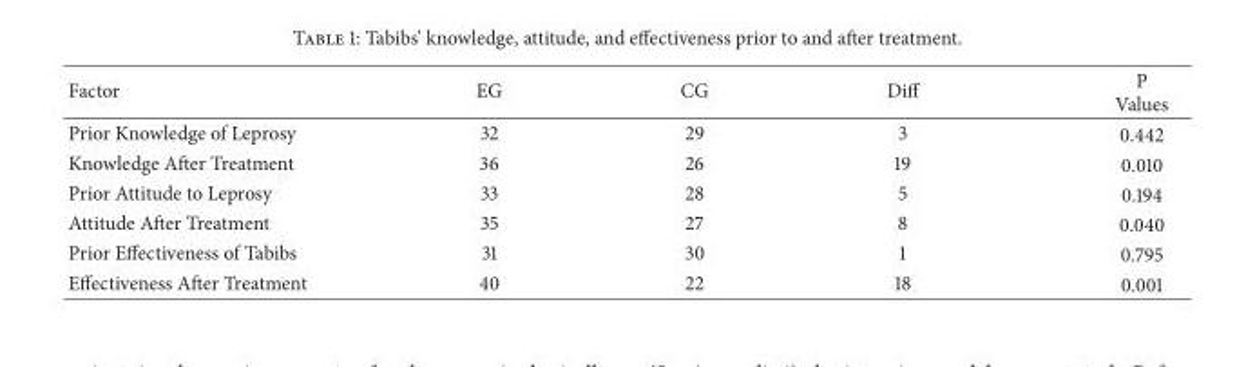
<table><thead><tr><td>Factor</td><td>EG</td><td>CG</td><td>Diff</td><td>P Values</td></tr></thead><tbody><tr><td>Prior Knowledge of Leprosy</td><td>32</td><td>29</td><td>3</td><td>0.442</td></tr><tr><td>Knowledge After Treatment</td><td>36</td><td>26</td><td>19</td><td>0.010</td></tr><tr><td>Prior Attitude to Leprosy</td><td>33</td><td>28</td><td>5</td><td>0.194</td></tr><tr><td>Attitude After Treatment</td><td>35</td><td>27</td><td>8</td><td>0.040</td></tr><tr><td>Prior Effectiveness of Tabibs</td><td>31</td><td>30</td><td>1</td><td>0.795</td></tr><tr><td>Effectiveness After Treatment</td><td>40</td><td>22</td><td>18</td><td>0.001</td></tr></tbody></table>